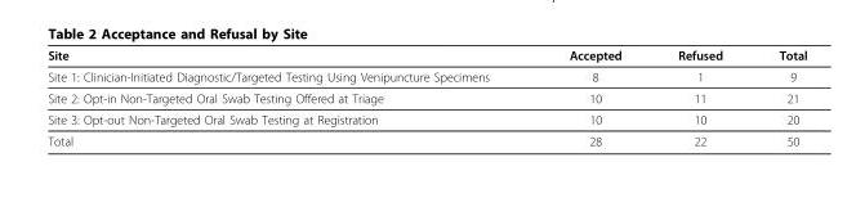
<table><thead><tr><td>Site</td><td>Accepted</td><td>Refused</td><td>Total</td></tr></thead><tbody><tr><td>Site 1: Clinician-Initiated Diagnostic/Targeted Testing Using Venipuncture Specimens</td><td>8</td><td>1</td><td>9</td></tr><tr><td>Site 2: Opt-in Non-Targeted Oral Swab Testing Offered at Triage</td><td>10</td><td>11</td><td>21</td></tr><tr><td>Site 3: Opt-out Non-Targeted Oral Swab Testing at Registration</td><td>10</td><td>10</td><td>20</td></tr><tr><td>Total</td><td>28</td><td>22</td><td>50</td></tr></tbody></table>